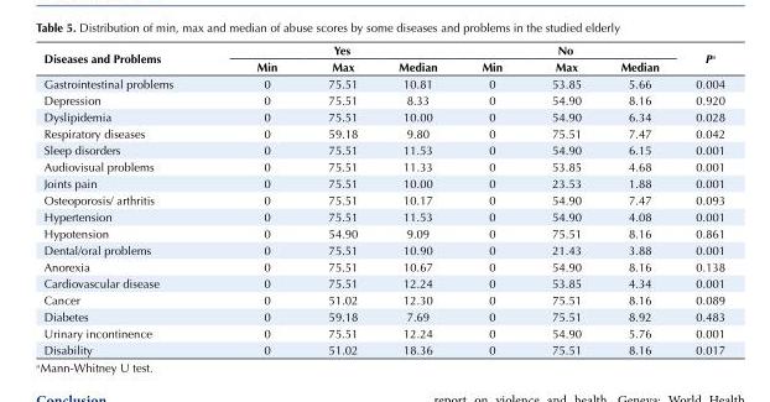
<table><tbody><tr><td rowspan="2">Diseases and Problems</td><td colspan="3">Yes</td><td colspan="3">No</td><td rowspan="2">P<sup>a</sup></td></tr><tr><td>Min</td><td>Max</td><td>Median</td><td>Min</td><td>Max</td><td>Median</td></tr><tr><td>Gastrointestinal problems</td><td>0</td><td>75.51</td><td>10.81</td><td>0</td><td>53.85</td><td>5.66</td><td>0.004</td></tr><tr><td>Depression</td><td>0</td><td>75.51</td><td>8.33</td><td>0</td><td>54.90</td><td>8.16</td><td>0.920</td></tr><tr><td>Dyslipidemia</td><td>0</td><td>75.51</td><td>10.00</td><td>0</td><td>54.90</td><td>6.34</td><td>0.028</td></tr><tr><td>Respiratory diseases</td><td>0</td><td>59.18</td><td>9.80</td><td>0</td><td>75.51</td><td>7.47</td><td>0.042</td></tr><tr><td>Sleep disorders</td><td>0</td><td>75.51</td><td>11.53</td><td>0</td><td>54.90</td><td>6.15</td><td>0.001</td></tr><tr><td>Audiovisual problems</td><td>0</td><td>75.51</td><td>11.33</td><td>0</td><td>53.85</td><td>4.68</td><td>0.001</td></tr><tr><td>Joints pain</td><td>0</td><td>75.51</td><td>10.00</td><td>0</td><td>23.53</td><td>1.88</td><td>0.001</td></tr><tr><td>Osteoporosis/ arthritis</td><td>0</td><td>75.51</td><td>10.17</td><td>0</td><td>54.90</td><td>7.47</td><td>0.093</td></tr><tr><td>Hypertension</td><td>0</td><td>75.51</td><td>11.53</td><td>0</td><td>54.90</td><td>4.08</td><td>0.001</td></tr><tr><td>Hypotension</td><td>0</td><td>54.90</td><td>9.09</td><td>0</td><td>75.51</td><td>8.16</td><td>0.861</td></tr><tr><td>Dental/oral problems</td><td>0</td><td>75.51</td><td>10.90</td><td>0</td><td>21.43</td><td>3.88</td><td>0.001</td></tr><tr><td>Anorexia</td><td>0</td><td>75.51</td><td>10.67</td><td>0</td><td>54.90</td><td>8.16</td><td>0.138</td></tr><tr><td>Cardiovascular disease</td><td>0</td><td>75.51</td><td>12.24</td><td>0</td><td>53.85</td><td>4.34</td><td>0.001</td></tr><tr><td>Cancer</td><td>0</td><td>51.02</td><td>12.30</td><td>0</td><td>75.51</td><td>8.16</td><td>0.089</td></tr><tr><td>Diabetes</td><td>0</td><td>59.18</td><td>7.69</td><td>0</td><td>75.51</td><td>8.92</td><td>0.483</td></tr><tr><td>Urinary incontinence</td><td>0</td><td>75.51</td><td>12.24</td><td>0</td><td>54.90</td><td>5.76</td><td>0.001</td></tr><tr><td>Disability</td><td>0</td><td>51.02</td><td>18.36</td><td>0</td><td>75.51</td><td>8.16</td><td>0.017</td></tr></tbody></table>